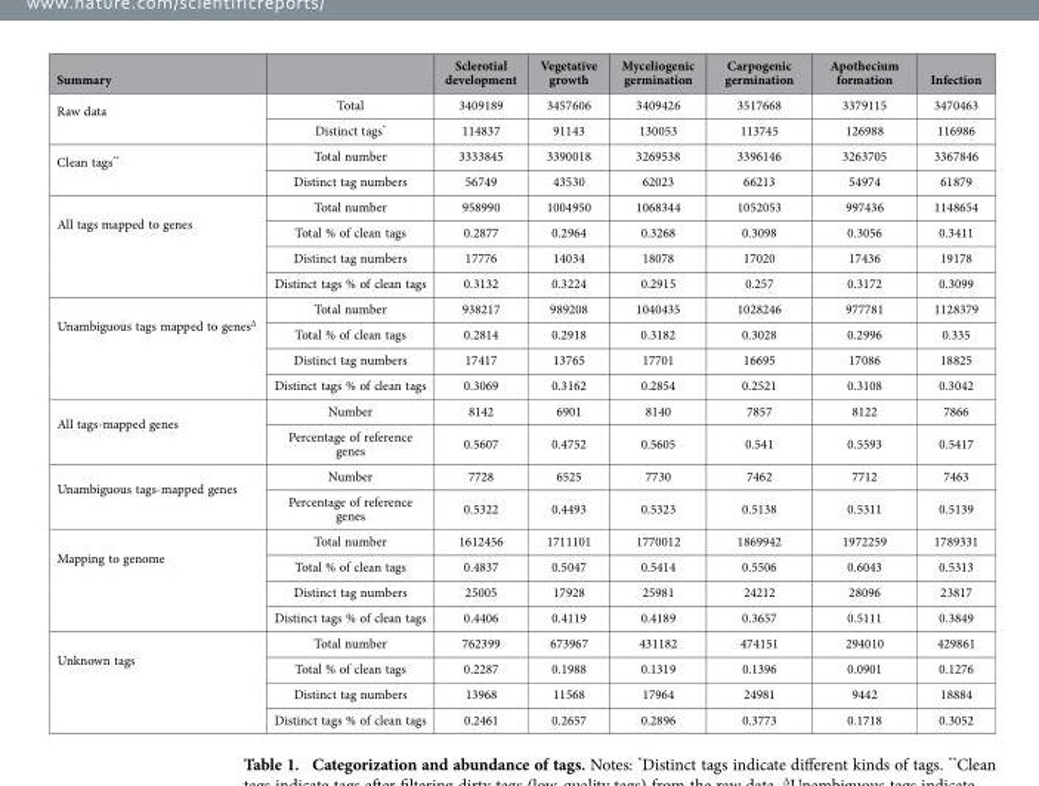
<table><thead><tr><td>Summary</td><td></td><td>Sclerotial development</td><td>Vegetative growth</td><td>Myceliogenic germination</td><td>Carpogenic germination</td><td>Apothecium formation</td><td>Infection</td></tr></thead><tbody><tr><td rowspan="2">Raw data</td><td>Total</td><td>3409189</td><td>3457606</td><td>3409426</td><td>3517668</td><td>3379115</td><td>3470463</td></tr><tr><td>Distinct tags*</td><td>114837</td><td>91143</td><td>130053</td><td>113745</td><td>126988</td><td>116986</td></tr><tr><td rowspan="2">Clean tags**</td><td>Total number</td><td>3333845</td><td>3390018</td><td>3269538</td><td>3396146</td><td>3263705</td><td>3367846</td></tr><tr><td>Distinct tag numbers</td><td>56749</td><td>43530</td><td>62023</td><td>66213</td><td>54974</td><td>61879</td></tr><tr><td rowspan="4">All tags mapped to genes</td><td>Total number</td><td>958990</td><td>1004950</td><td>1068344</td><td>1052053</td><td>997436</td><td>1148654</td></tr><tr><td>Total % of clean tags</td><td>0.2877</td><td>0.2964</td><td>0.3268</td><td>0.3098</td><td>0.3056</td><td>0.3411</td></tr><tr><td>Distinct tag numbers</td><td>17776</td><td>14034</td><td>18078</td><td>17020</td><td>17436</td><td>19178</td></tr><tr><td>Distinct tags % of clean tags</td><td>0.3132</td><td>0.3224</td><td>0.2915</td><td>0.257</td><td>0.3172</td><td>0.3099</td></tr><tr><td rowspan="4">Unambiguous tags mapped to genes∆</td><td>Total number</td><td>938217</td><td>989208</td><td>1040435</td><td>1028246</td><td>977781</td><td>1128379</td></tr><tr><td>Total % of clean tags</td><td>0.2814</td><td>0.2918</td><td>0.3182</td><td>0.3028</td><td>0.2996</td><td>0.335</td></tr><tr><td>Distinct tag numbers</td><td>17417</td><td>13765</td><td>17701</td><td>16695</td><td>17086</td><td>18825</td></tr><tr><td>Distinct tags % of clean tags</td><td>0.3069</td><td>0.3162</td><td>0.2854</td><td>0.2521</td><td>0.3108</td><td>0.3042</td></tr><tr><td rowspan="2">All tags-mapped genes</td><td>Number</td><td>8142</td><td>6901</td><td>8140</td><td>7857</td><td>8122</td><td>7866</td></tr><tr><td>Percentage of reference genes</td><td>0.5607</td><td>0.4752</td><td>0.5605</td><td>0.541</td><td>0.5593</td><td>0.5417</td></tr><tr><td rowspan="2">Unambiguous tags-mapped genes</td><td>Number</td><td>7728</td><td>6525</td><td>7730</td><td>7462</td><td>7712</td><td>7463</td></tr><tr><td>Percentage of reference genes</td><td>0.5322</td><td>0.4493</td><td>0.5323</td><td>0.5138</td><td>0.5311</td><td>0.5139</td></tr><tr><td rowspan="4">Mapping to genome</td><td>Total number</td><td>1612456</td><td>1711101</td><td>1770012</td><td>1869942</td><td>1972259</td><td>1789331</td></tr><tr><td>Total % of clean tags</td><td>0.4837</td><td>0.5047</td><td>0.5414</td><td>0.5506</td><td>0.6043</td><td>0.5313</td></tr><tr><td>Distinct tag numbers</td><td>25005</td><td>17928</td><td>25981</td><td>24212</td><td>28096</td><td>23817</td></tr><tr><td>Distinct tags % of clean tags</td><td>0.4406</td><td>0.4119</td><td>0.4189</td><td>0.3657</td><td>0.5111</td><td>0.3849</td></tr><tr><td rowspan="4">Unknown tags</td><td>Total number</td><td>762399</td><td>673967</td><td>431182</td><td>474151</td><td>294010</td><td>429861</td></tr><tr><td>Total % of clean tags</td><td>0.2287</td><td>0.1988</td><td>0.1319</td><td>0.1396</td><td>0.0901</td><td>0.1276</td></tr><tr><td>Distinct tag numbers</td><td>13968</td><td>11568</td><td>17964</td><td>24981</td><td>9442</td><td>18884</td></tr><tr><td>Distinct tags % of clean tags</td><td>0.2461</td><td>0.2657</td><td>0.2896</td><td>0.3773</td><td>0.1718</td><td>0.3052</td></tr></tbody></table>